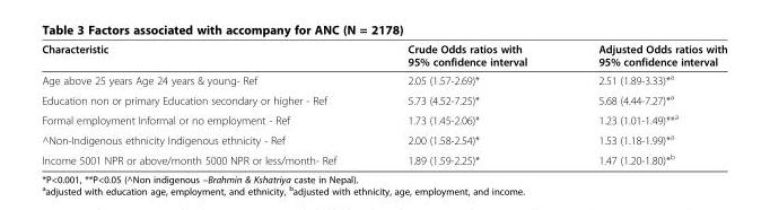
<table><thead><tr><td>Characteristic</td><td>Crude Odds ratios with 95% confidence interval</td><td>Adjusted Odds ratios with 95% confidence interval</td></tr></thead><tbody><tr><td>Age above 25 years Age 24 years &amp; young- Ref</td><td>2.05 (1.57-2.69)*</td><td>2.51 (1.89-3.33)*<sup>a</sup></td></tr><tr><td>Education non or primary Education secondary or higher - Ref</td><td>5.73 (4.52-7.25)*</td><td>5.68 (4.44-7.27)*<sup>a</sup></td></tr><tr><td>Formal employment Informal or no employment - Ref</td><td>1.73 (1.45-2.06)*</td><td>1.23 (1.01-1.49)**<sup>a</sup></td></tr><tr><td>^Non-Indigenous ethnicity Indigenous ethnicity - Ref</td><td>2.00 (1.58-2.54)*</td><td>1.53 (1.18-1.99)*<sup>a</sup></td></tr><tr><td>Income 5001 NPR or above/month 5000 NPR or less/month- Ref</td><td>1.89 (1.59-2.25)*</td><td>1.47 (1.20-1.80)*<sup>b</sup></td></tr></tbody></table>